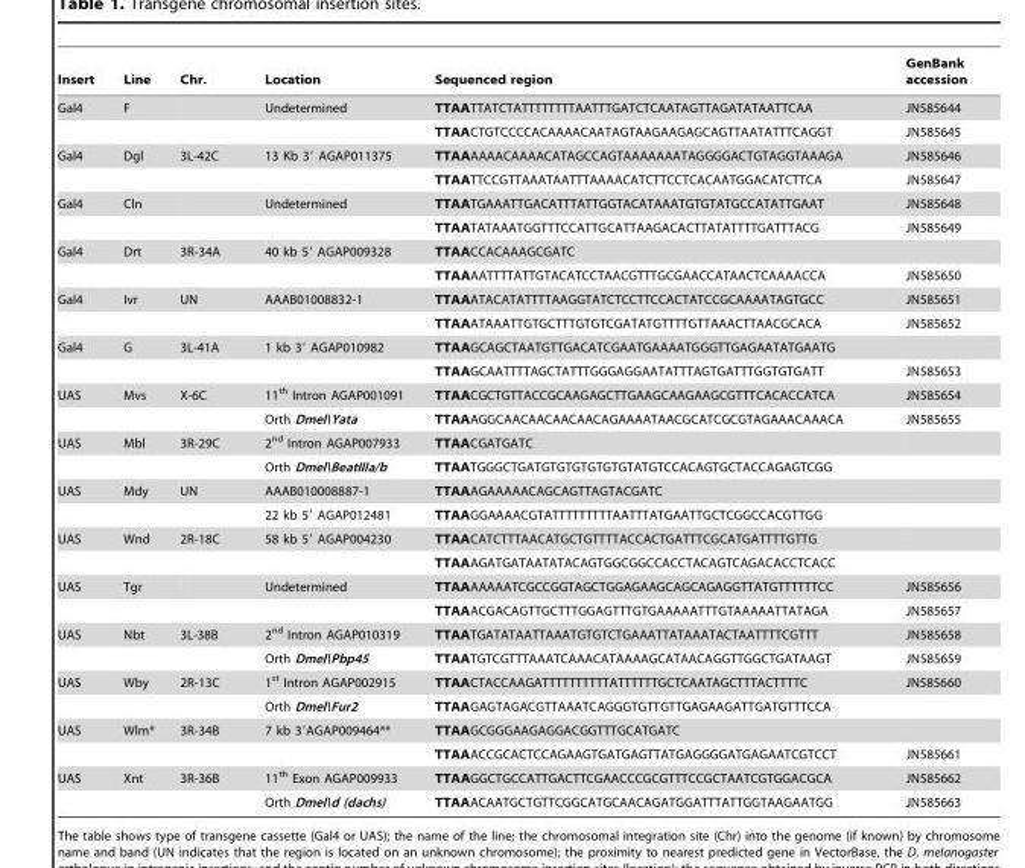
<table><thead><tr><td>Insert</td><td>Line</td><td>Chr.</td><td>Location</td><td>Sequenced region</td><td>GenBank accession</td></tr></thead><tbody><tr><td rowspan="2">Gal4</td><td>F</td><td></td><td>Undetermined</td><td>TTAATTATCTATTTTTTTTAATTTGATCTCAATAGTTAGATATAATTCAA</td><td>JN585644</td></tr><tr><td></td><td></td><td></td><td>TTAACTGTCCCCACAAAACAATAGTAAGAAGAGCAGTTAATATTTCAGGT</td><td>JN585645</td></tr><tr><td rowspan="2">Gal4</td><td>Dgl</td><td>3L-42C</td><td>13 Kb 3′ AGAP011375</td><td>TTAAAAAACAAAACATAGCCAGTAAAAAAATAGGGGACTGTAGGTAAAGA</td><td>JN585646</td></tr><tr><td></td><td></td><td></td><td>TTAATTCCGTTAAATAATTTAAAACATCTTCCTCACAATGGACATCTTCA</td><td>JN585647</td></tr><tr><td rowspan="2">Gal4</td><td>Cln</td><td></td><td>Undetermined</td><td>TTAATGAAATTGACATTTATTGGTACATAAATGTGTATGCCATATTGAAT</td><td>JN585648</td></tr><tr><td></td><td></td><td></td><td>TTAATATAAATGGTTTCCATTGCATTAAGACACTTATATTTTGATTTACG</td><td>JN585649</td></tr><tr><td rowspan="2">Gal4</td><td>Drt</td><td>3R-34A</td><td>40 kb 5′ AGAP009328</td><td>TTAACCACAAAGCGATC</td><td></td></tr><tr><td></td><td></td><td></td><td>TTAAAATTTTATTGTACATCCTAACGTTTGCGAACCATAACTCAAAACCA</td><td>JN585650</td></tr><tr><td rowspan="2">Gal4</td><td>Ivr</td><td>UN</td><td>AAAB01008832-1</td><td>TTAAATACATATTTTAAGGTATCTCCTTCCACTATCCGCAAAATAGTGCC</td><td>JN585651</td></tr><tr><td></td><td></td><td></td><td>TTAAATAAATTGTGCTTTGTGTCGATATGTTTTGTTAAACTTAACGCACA</td><td>JN585652</td></tr><tr><td rowspan="2">Gal4</td><td>G</td><td>3L-41A</td><td>1 kb 3′ AGAP010982</td><td>TTAAGCAGCTAATGTTGACATCGAATGAAAATGGGTTGAGAATATGAATG</td><td></td></tr><tr><td></td><td></td><td></td><td>TTAAGCAATTTTAGCTATTTGGGAGGAATATTTAGTGATTTGGTGTGATT</td><td>JN585653</td></tr><tr><td rowspan="2">UAS</td><td>Mvs</td><td>X-6C</td><td>11<sup>th</sup> Intron AGAP001091</td><td>TTAACGCTGTTACCGCAAGAGCTTGAAGCAAGAAGCGTTTCACACCATCA</td><td>JN585654</td></tr><tr><td></td><td></td><td>Orth Dmel\Yata</td><td>TTAAAGGCAACAACAACAACAGAAAATAACGCATCGCGTAGAAACAAACA</td><td>JN585655</td></tr><tr><td rowspan="2">UAS</td><td>Mbl</td><td>3R-29C</td><td>2<sup>nd</sup> Intron AGAP007933</td><td>TTAACGATGATC</td><td></td></tr><tr><td></td><td></td><td>Orth Dmel\BeatIIIa/b</td><td>TTAATGGGCTGATGTGTGTGTGTGTATGTCCACAGTGCTACCAGAGTCGG</td><td></td></tr><tr><td rowspan="2">UAS</td><td>Mdy</td><td>UN</td><td>AAAB010008887-1</td><td>TTAAAGAAAAACAGCAGTTAGTACGATC</td><td></td></tr><tr><td></td><td></td><td>22 kb 5′ AGAP012481</td><td>TTAAGGAAAACGTATTTTTTTTTAATTTATGAATTGCTCGGCCACGTTGG</td><td></td></tr><tr><td rowspan="2">UAS</td><td>Wnd</td><td>2R-18C</td><td>58 kb 5′ AGAP004230</td><td>TTAACATCTTTAACATGCTGTTTTACCACTGATTTCGCATGATTTTGTTG</td><td></td></tr><tr><td></td><td></td><td></td><td>TTAAAGATGATAATATACAGTGGCGGCCACCTACAGTCAGACACCTCACC</td><td></td></tr><tr><td rowspan="2">UAS</td><td>Tgr</td><td></td><td>Undetermined</td><td>TTAAAAAAATCGCCGGTAGCTGGAGAAGCAGCAGAGGTTATGTTTTTTCC</td><td>JN585656</td></tr><tr><td></td><td></td><td></td><td>TTAAACGACAGTTGCTTTGGAGTTTGTGAAAAATTTGTAAAAATTATAGA</td><td>JN585657</td></tr><tr><td rowspan="2">UAS</td><td>Nbt</td><td>3L-38B</td><td>2<sup>nd</sup> Intron AGAP010319</td><td>TTAATGATATAATTAAATGTGTCTGAAATTATAAATACTAATTTTCGTTT</td><td>JN585658</td></tr><tr><td></td><td></td><td>Orth Dmel\Pbp45</td><td>TTAATGTCGTTTAAATCAAACATAAAAGCATAACAGGTTGGCTGATAAGT</td><td>JN585659</td></tr><tr><td rowspan="2">UAS</td><td>Wby</td><td>2R-13C</td><td>1<sup>st</sup> Intron AGAP002915</td><td>TTAACTACCAAGATTTTTTTTTTATTTTTTGCTCAATAGCTTTACTTTTC</td><td>JN585660</td></tr><tr><td></td><td></td><td>Orth Dmel\Fur2</td><td>TTAAGAGTAGACGTTAAATCAGGGTGTTGTTGAGAAGATTGATGTTTCCA</td><td></td></tr><tr><td rowspan="2">UAS</td><td>Wlm*</td><td>3R-34B</td><td>7 kb 3′AGAP009464**</td><td>TTAAGCGGGAAGAGGACGGTTTGCATGATC</td><td></td></tr><tr><td></td><td></td><td></td><td>TTAAACCGCACTCCAGAAGTGATGAGTTATGAGGGGATGAGAATCGTCCT</td><td>JN585661</td></tr><tr><td rowspan="2">UAS</td><td>Xnt</td><td>3R-36B</td><td>11<sup>th</sup> Exon AGAP009933</td><td>TTAAGGCTGCCATTGACTTCGAACCCGCGTTTCCGCTAATCGTGGACGCA</td><td>JN585662</td></tr><tr><td></td><td></td><td>Orth Dmel\d (dachs)</td><td>TTAAACAATGCTGTTCGGCATGCAACAGATGGATTTATTGGTAAGAATGG</td><td>JN585663</td></tr></tbody></table>